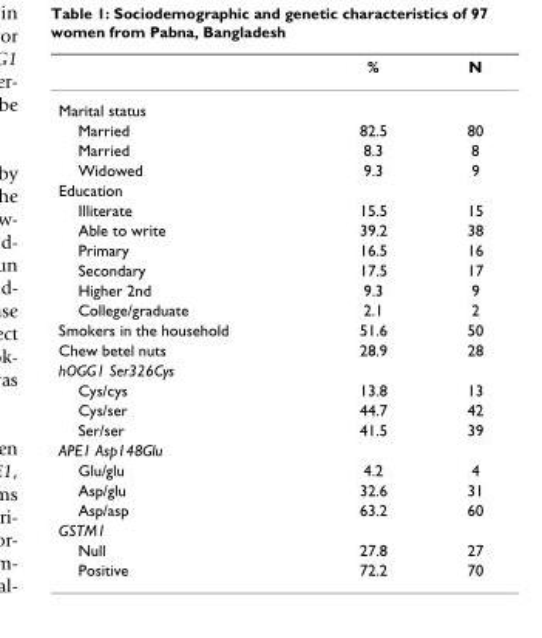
<table><thead><tr><td></td><td>%</td><td>N</td></tr></thead><tbody><tr><td colspan="3">Marital status</td></tr><tr><td>Married</td><td>82.5</td><td>80</td></tr><tr><td>Married</td><td>8.3</td><td>8</td></tr><tr><td>Widowed</td><td>9.3</td><td>9</td></tr><tr><td colspan="3">Education</td></tr><tr><td>Illiterate</td><td>15.5</td><td>15</td></tr><tr><td>Able to write</td><td>39.2</td><td>38</td></tr><tr><td>Primary</td><td>16.5</td><td>16</td></tr><tr><td>Secondary</td><td>17.5</td><td>17</td></tr><tr><td>Higher 2nd</td><td>9.3</td><td>9</td></tr><tr><td>College/graduate</td><td>2.1</td><td>2</td></tr><tr><td>Smokers in the household</td><td>51.6</td><td>50</td></tr><tr><td>Chew betel nuts</td><td>28.9</td><td>28</td></tr><tr><td colspan="3">hOGG1 Ser326Cys</td></tr><tr><td>Cys/cys</td><td>13.8</td><td>13</td></tr><tr><td>Cys/ser</td><td>44.7</td><td>42</td></tr><tr><td>Ser/ser</td><td>41.5</td><td>39</td></tr><tr><td colspan="3">APE1 Asp148Glu</td></tr><tr><td>Glu/glu</td><td>4.2</td><td>4</td></tr><tr><td>Asp/glu</td><td>32.6</td><td>31</td></tr><tr><td>Asp/asp</td><td>63.2</td><td>60</td></tr><tr><td colspan="3">GSTM1</td></tr><tr><td>Null</td><td>27.8</td><td>27</td></tr><tr><td>Positive</td><td>72.2</td><td>70</td></tr></tbody></table>